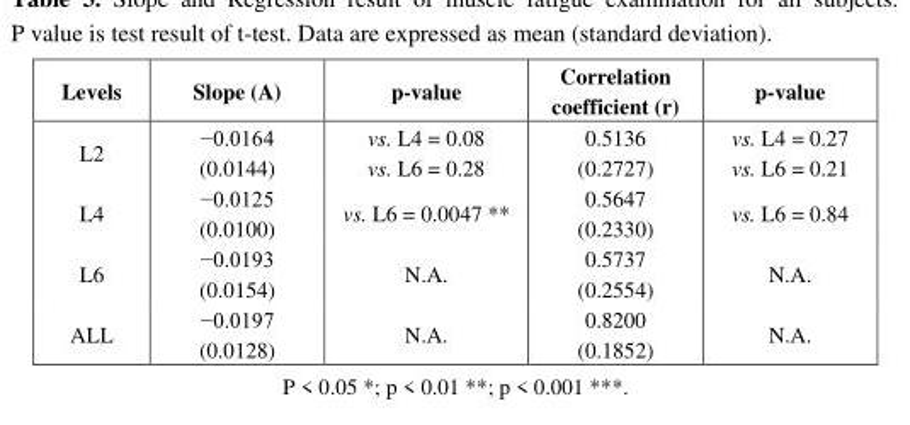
<table><thead><tr><td>Levels</td><td>Slope (A)</td><td>p-value</td><td>Correlation coefficient (r)</td><td>p-value</td></tr></thead><tbody><tr><td>L2</td><td>−0.0164 (0.0144)</td><td>vs. L4 = 0.08 vs. L6 = 0.28</td><td>0.5136 (0.2727)</td><td>vs. L4 = 0.27 vs. L6 = 0.21</td></tr><tr><td>L4</td><td>−0.0125 (0.0100)</td><td>vs. L6 = 0.0047 **</td><td>0.5647 (0.2330)</td><td>vs. L6 = 0.84</td></tr><tr><td>L6</td><td>−0.0193 (0.0154)</td><td>N.A.</td><td>0.5737 (0.2554)</td><td>N.A.</td></tr><tr><td>ALL</td><td>−0.0197 (0.0128)</td><td>N.A.</td><td>0.8200 (0.1852)</td><td>N.A.</td></tr></tbody></table>